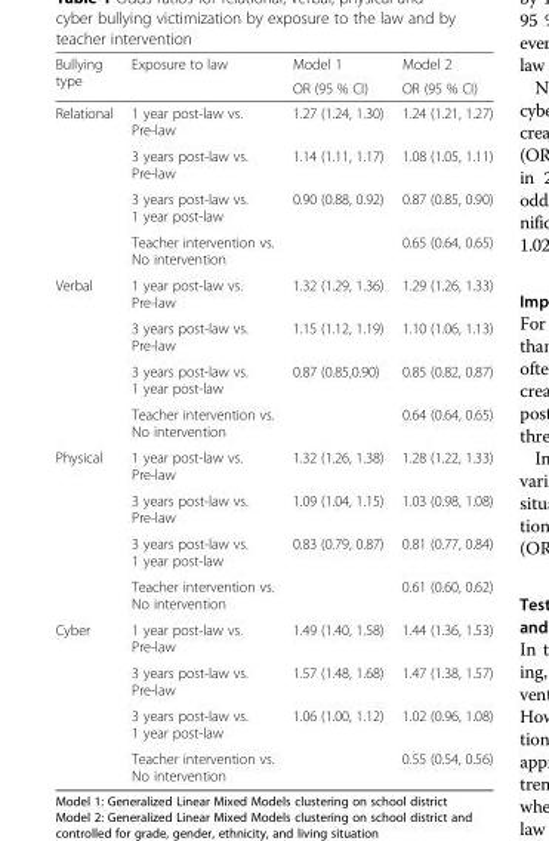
<table><thead><tr><td rowspan="2">Bullying type</td><td rowspan="2">Exposure to law</td><td rowspan="2">Model 1 OR (95 % CI)</td><td rowspan="2">Model 2 OR (95 % CI)</td></tr><tr></tr></thead><tbody><tr><td rowspan="4">Relational</td><td>1 year post-law vs. Pre-law</td><td>1.27 (1.24, 1.30)</td><td>1.24 (1.21, 1.27)</td></tr><tr><td>3 years post-law vs. Pre-law</td><td>1.14 (1.11, 1.17)</td><td>1.08 (1.05, 1.11)</td></tr><tr><td>3 years post-law vs. 1 year post-law</td><td>0.90 (0.88, 0.92)</td><td>0.87 (0.85, 0.90)</td></tr><tr><td>Teacher intervention vs. No intervention</td><td></td><td>0.65 (0.64, 0.65)</td></tr><tr><td rowspan="4">Verbal</td><td>1 year post-law vs. Pre-law</td><td>1.32 (1.29, 1.36)</td><td>1.29 (1.26, 1.33)</td></tr><tr><td>3 years post-law vs. Pre-law</td><td>1.15 (1.12, 1.19)</td><td>1.10 (1.06, 1.13)</td></tr><tr><td>3 years post-law vs. 1 year post-law</td><td>0.87 (0.85,0.90)</td><td>0.85 (0.82, 0.87)</td></tr><tr><td>Teacher intervention vs. No intervention</td><td></td><td>0.64 (0.64, 0.65)</td></tr><tr><td rowspan="4">Physical</td><td>1 year post-law vs. Pre-law</td><td>1.32 (1.26, 1.38)</td><td>1.28 (1.22, 1.33)</td></tr><tr><td>3 years post-law vs. Pre-law</td><td>1.09 (1.04, 1.15)</td><td>1.03 (0.98, 1.08)</td></tr><tr><td>3 years post-law vs. 1 year post-law</td><td>0.83 (0.79, 0.87)</td><td>0.81 (0.77, 0.84)</td></tr><tr><td>Teacher intervention vs. No intervention</td><td></td><td>0.61 (0.60, 0.62)</td></tr><tr><td rowspan="4">Cyber</td><td>1 year post-law vs. Pre-law</td><td>1.49 (1.40, 1.58)</td><td>1.44 (1.36, 1.53)</td></tr><tr><td>3 years post-law vs. Pre-law</td><td>1.57 (1.48, 1.68)</td><td>1.47 (1.38, 1.57)</td></tr><tr><td>3 years post-law vs. 1 year post-law</td><td>1.06 (1.00, 1.12)</td><td>1.02 (0.96, 1.08)</td></tr><tr><td>Teacher intervention vs. No intervention</td><td></td><td>0.55 (0.54, 0.56)</td></tr></tbody></table>